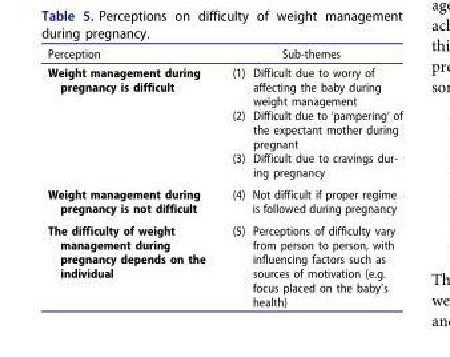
<table><thead><tr><td>Perception</td><td>Sub-themes</td></tr></thead><tbody><tr><td>Weight management during pregnancy is difficult</td><td>(1) Difficult due to worry of affecting the baby during weight management (2) Difficult due to ‘pampering’ of the expectant mother during pregnant (3) Difficult due to cravings dur- ing pregnancy</td></tr><tr><td>Weight management during pregnancy is not difficult</td><td>(4) Not difficult if proper regime is followed during pregnancy</td></tr><tr><td>The difficulty of weight management during pregnancy depends on the individual</td><td>(5) Perceptions of difficulty vary from person to person, with influencing factors such as sources of motivation (e.g. focus placed on the baby’s health)</td></tr></tbody></table>